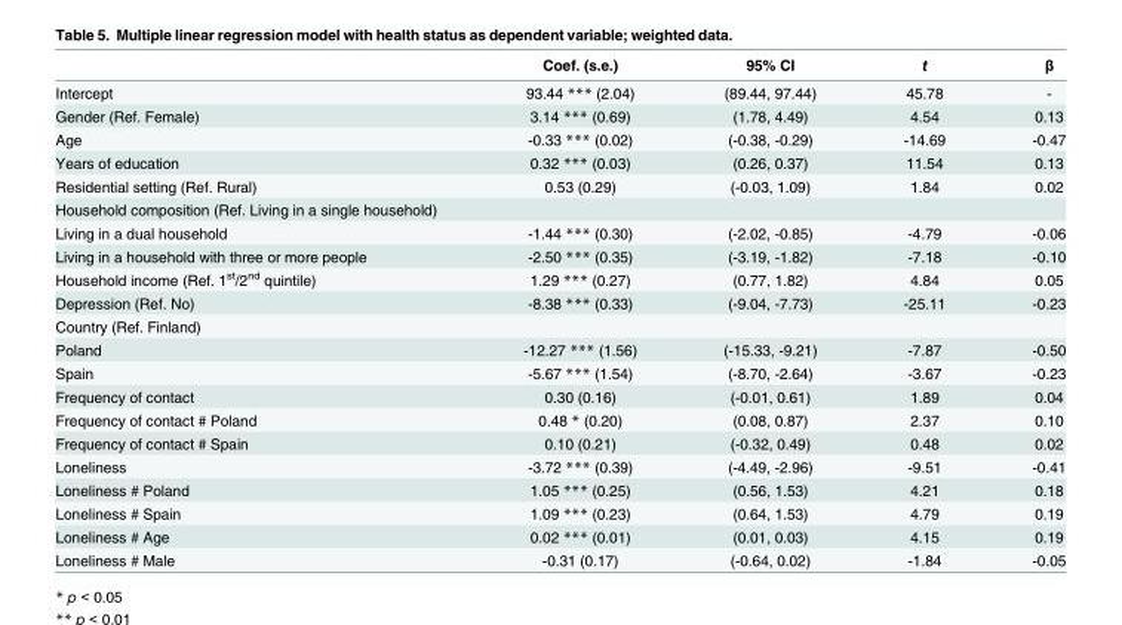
<table><thead><tr><td></td><td>Coef. (s.e.)</td><td>95% CI</td><td>t</td><td>β</td></tr></thead><tbody><tr><td>Intercept</td><td>93.44 *** (2.04)</td><td>(89.44, 97.44)</td><td>45.78</td><td>-</td></tr><tr><td>Gender (Ref. Female)</td><td>3.14 *** (0.69)</td><td>(1.78, 4.49)</td><td>4.54</td><td>0.13</td></tr><tr><td>Age</td><td>-0.33 *** (0.02)</td><td>(-0.38, -0.29)</td><td>-14.69</td><td>-0.47</td></tr><tr><td>Years of education</td><td>0.32 *** (0.03)</td><td>(0.26, 0.37)</td><td>11.54</td><td>0.13</td></tr><tr><td>Residential setting (Ref. Rural)</td><td>0.53 (0.29)</td><td>(-0.03, 1.09)</td><td>1.84</td><td>0.02</td></tr><tr><td colspan="5">Household composition (Ref. Living in a single household)</td></tr><tr><td>Living in a dual household</td><td>-1.44 *** (0.30)</td><td>(-2.02, -0.85)</td><td>-4.79</td><td>-0.06</td></tr><tr><td>Living in a household with three or more people</td><td>-2.50 *** (0.35)</td><td>(-3.19, -1.82)</td><td>-7.18</td><td>-0.10</td></tr><tr><td>Household income (Ref. 1<sup>st</sup>/2<sup>nd</sup> quintile)</td><td>1.29 *** (0.27)</td><td>(0.77, 1.82)</td><td>4.84</td><td>0.05</td></tr><tr><td>Depression (Ref. No)</td><td>-8.38 *** (0.33)</td><td>(-9.04, -7.73)</td><td>-25.11</td><td>-0.23</td></tr><tr><td colspan="5">Country (Ref. Finland)</td></tr><tr><td>Poland</td><td>-12.27 *** (1.56)</td><td>(-15.33, -9.21)</td><td>-7.87</td><td>-0.50</td></tr><tr><td>Spain</td><td>-5.67 *** (1.54)</td><td>(-8.70, -2.64)</td><td>-3.67</td><td>-0.23</td></tr><tr><td>Frequency of contact</td><td>0.30 (0.16)</td><td>(-0.01, 0.61)</td><td>1.89</td><td>0.04</td></tr><tr><td>Frequency of contact # Poland</td><td>0.48 * (0.20)</td><td>(0.08, 0.87)</td><td>2.37</td><td>0.10</td></tr><tr><td>Frequency of contact # Spain</td><td>0.10 (0.21)</td><td>(-0.32, 0.49)</td><td>0.48</td><td>0.02</td></tr><tr><td>Loneliness</td><td>-3.72 *** (0.39)</td><td>(-4.49, -2.96)</td><td>-9.51</td><td>-0.41</td></tr><tr><td>Loneliness # Poland</td><td>1.05 *** (0.25)</td><td>(0.56, 1.53)</td><td>4.21</td><td>0.18</td></tr><tr><td>Loneliness # Spain</td><td>1.09 *** (0.23)</td><td>(0.64, 1.53)</td><td>4.79</td><td>0.19</td></tr><tr><td>Loneliness # Age</td><td>0.02 *** (0.01)</td><td>(0.01, 0.03)</td><td>4.15</td><td>0.19</td></tr><tr><td>Loneliness # Male</td><td>-0.31 (0.17)</td><td>(-0.64, 0.02)</td><td>-1.84</td><td>-0.05</td></tr></tbody></table>